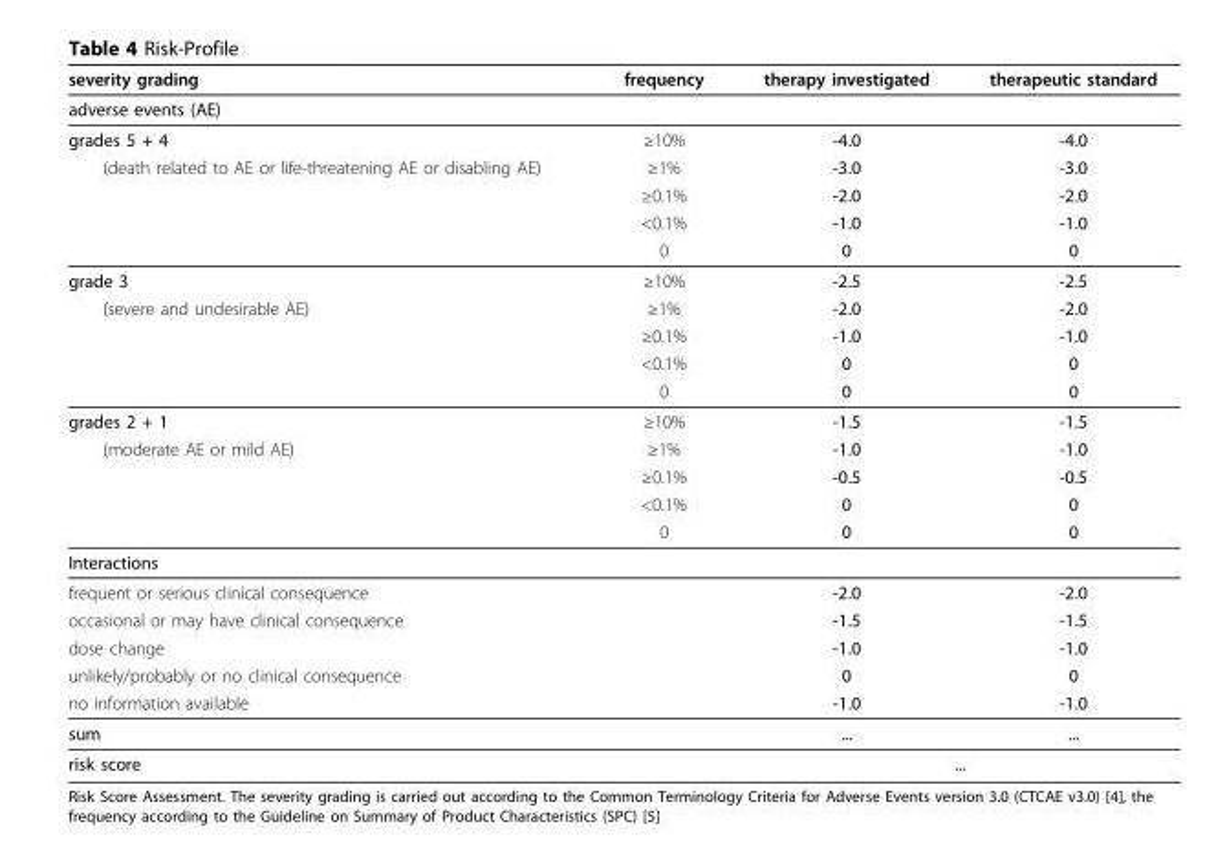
<table><thead><tr><td>severity grading</td><td>frequency</td><td>therapy investigated</td><td>therapeutic standard</td></tr></thead><tbody><tr><td colspan="4">adverse events (AE)</td></tr><tr><td>grades 5 + 4</td><td>≥10%</td><td>-4.0</td><td>-4.0</td></tr><tr><td rowspan="4">(death related to AE or life-threatening AE or disabling AE)</td><td>≥1%</td><td>-3.0</td><td>-3.0</td></tr><tr><td>≥0.1%</td><td>-2.0</td><td>-2.0</td></tr><tr><td>&lt;0.1%</td><td>-1.0</td><td>-1.0</td></tr><tr><td>0</td><td>0</td><td>0</td></tr><tr><td>grade 3</td><td>≥10%</td><td>-2.5</td><td>-2.5</td></tr><tr><td rowspan="4">(severe and undesirable AE)</td><td>≥1%</td><td>-2.0</td><td>-2.0</td></tr><tr><td>≥0.1%</td><td>-1.0</td><td>-1.0</td></tr><tr><td>&lt;0.1%</td><td>0</td><td>0</td></tr><tr><td>0</td><td>0</td><td>0</td></tr><tr><td>grades 2 + 1</td><td>≥10%</td><td>-1.5</td><td>-1.5</td></tr><tr><td rowspan="4">(moderate AE or mild AE)</td><td>≥1%</td><td>-1.0</td><td>-1.0</td></tr><tr><td>≥0.1%</td><td>-0.5</td><td>-0.5</td></tr><tr><td>&lt;0.1%</td><td>0</td><td>0</td></tr><tr><td>0</td><td>0</td><td>0</td></tr><tr><td colspan="4">Interactions</td></tr><tr><td>frequent or serious clinical consequence</td><td></td><td>-2.0</td><td>-2.0</td></tr><tr><td>occasional or may have clinical consequence</td><td></td><td>-1.5</td><td>-1.5</td></tr><tr><td>dose change</td><td></td><td>-1.0</td><td>-1.0</td></tr><tr><td>unlikely/probably or no clinical consequence</td><td></td><td>0</td><td>0</td></tr><tr><td>no information available</td><td></td><td>-1.0</td><td>-1.0</td></tr><tr><td>sum</td><td></td><td>...</td><td>...</td></tr><tr><td>risk score</td><td></td><td colspan="2">...</td></tr></tbody></table>